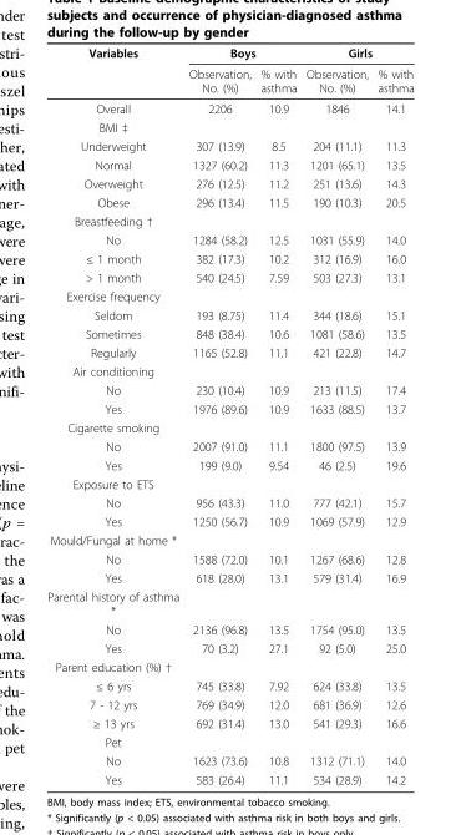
<table><thead><tr><td rowspan="2">Variables</td><td colspan="2">Boys</td><td colspan="2">Girls</td></tr><tr><td>Observation, No. (%)</td><td>% with asthma</td><td>Observation, No. (%)</td><td>% with asthma</td></tr></thead><tbody><tr><td>Overall</td><td>2206</td><td>10.9</td><td>1846</td><td>14.1</td></tr><tr><td colspan="5">BMI ‡</td></tr><tr><td>Underweight</td><td>307 (13.9)</td><td>8.5</td><td>204 (11.1)</td><td>11.3</td></tr><tr><td>Normal</td><td>1327 (60.2)</td><td>11.3</td><td>1201 (65.1)</td><td>13.5</td></tr><tr><td>Overweight</td><td>276 (12.5)</td><td>11.2</td><td>251 (13.6)</td><td>14.3</td></tr><tr><td>Obese</td><td>296 (13.4)</td><td>11.5</td><td>190 (10.3)</td><td>20.5</td></tr><tr><td colspan="5">Breastfeeding †</td></tr><tr><td>No</td><td>1284 (58.2)</td><td>12.5</td><td>1031 (55.9)</td><td>14.0</td></tr><tr><td>≤ 1 month</td><td>382 (17.3)</td><td>10.2</td><td>312 (16.9)</td><td>16.0</td></tr><tr><td>&gt; 1 month</td><td>540 (24.5)</td><td>7.59</td><td>503 (27.3)</td><td>13.1</td></tr><tr><td colspan="5">Exercise frequency</td></tr><tr><td>Seldom</td><td>193 (8.75)</td><td>11.4</td><td>344 (18.6)</td><td>15.1</td></tr><tr><td>Sometimes</td><td>848 (38.4)</td><td>10.6</td><td>1081 (58.6)</td><td>13.5</td></tr><tr><td>Regularly</td><td>1165 (52.8)</td><td>11.1</td><td>421 (22.8)</td><td>14.7</td></tr><tr><td colspan="5">Air conditioning</td></tr><tr><td>No</td><td>230 (10.4)</td><td>10.9</td><td>213 (11.5)</td><td>17.4</td></tr><tr><td>Yes</td><td>1976 (89.6)</td><td>10.9</td><td>1633 (88.5)</td><td>13.7</td></tr><tr><td colspan="5">Cigarette smoking</td></tr><tr><td>No</td><td>2007 (91.0)</td><td>11.1</td><td>1800 (97.5)</td><td>13.9</td></tr><tr><td>Yes</td><td>199 (9.0)</td><td>9.54</td><td>46 (2.5)</td><td>19.6</td></tr><tr><td colspan="5">Exposure to ETS</td></tr><tr><td>No</td><td>956 (43.3)</td><td>11.0</td><td>777 (42.1)</td><td>15.7</td></tr><tr><td>Yes</td><td>1250 (56.7)</td><td>10.9</td><td>1069 (57.9)</td><td>12.9</td></tr><tr><td colspan="5">Mould/Fungal at home *</td></tr><tr><td>No</td><td>1588 (72.0)</td><td>10.1</td><td>1267 (68.6)</td><td>12.8</td></tr><tr><td>Yes</td><td>618 (28.0)</td><td>13.1</td><td>579 (31.4)</td><td>16.9</td></tr><tr><td colspan="5">Parental history of asthma *</td></tr><tr><td>No</td><td>2136 (96.8)</td><td>13.5</td><td>1754 (95.0)</td><td>13.5</td></tr><tr><td>Yes</td><td>70 (3.2)</td><td>27.1</td><td>92 (5.0)</td><td>25.0</td></tr><tr><td colspan="5">Parent education (%) †</td></tr><tr><td>≤ 6 yrs</td><td>745 (33.8)</td><td>7.92</td><td>624 (33.8)</td><td>13.5</td></tr><tr><td>7 - 12 yrs</td><td>769 (34.9)</td><td>12.0</td><td>681 (36.9)</td><td>12.6</td></tr><tr><td>≥ 13 yrs</td><td>692 (31.4)</td><td>13.0</td><td>541 (29.3)</td><td>16.6</td></tr><tr><td colspan="5">Pet</td></tr><tr><td>No</td><td>1623 (73.6)</td><td>10.8</td><td>1312 (71.1)</td><td>14.0</td></tr><tr><td>Yes</td><td>583 (26.4)</td><td>11.1</td><td>534 (28.9)</td><td>14.2</td></tr></tbody></table>